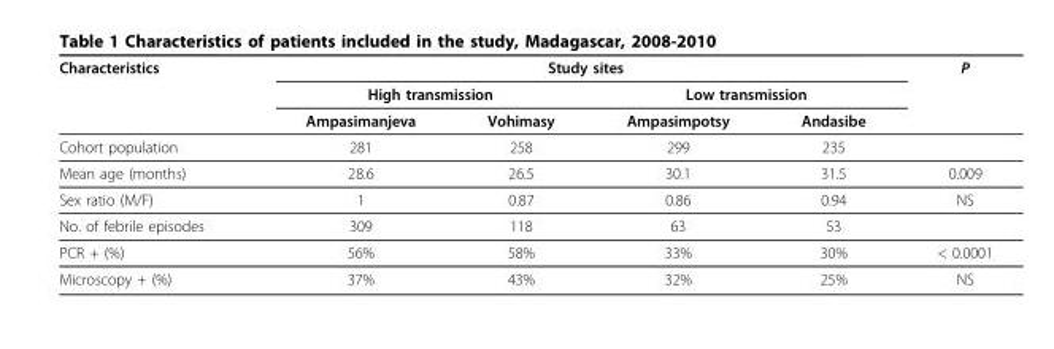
<table><thead><tr><td rowspan="3">Characteristics</td><td colspan="4">Study sites</td><td rowspan="3">P</td></tr><tr><td colspan="2">High transmission</td><td colspan="2">Low transmission</td></tr><tr><td>Ampasimanjeva</td><td>Vohimasy</td><td>Ampasimpotsy</td><td>Andasibe</td></tr></thead><tbody><tr><td>Cohort population</td><td>281</td><td>258</td><td>299</td><td>235</td><td></td></tr><tr><td>Mean age (months)</td><td>28.6</td><td>26.5</td><td>30.1</td><td>31.5</td><td>0.009</td></tr><tr><td>Sex ratio (M/F)</td><td>1</td><td>0.87</td><td>0.86</td><td>0.94</td><td>NS</td></tr><tr><td>No. of febrile episodes</td><td>309</td><td>118</td><td>63</td><td>53</td><td></td></tr><tr><td>PCR + (%)</td><td>56%</td><td>58%</td><td>33%</td><td>30%</td><td>&lt; 0.0001</td></tr><tr><td>Microscopy + (%)</td><td>37%</td><td>43%</td><td>32%</td><td>25%</td><td>NS</td></tr></tbody></table>